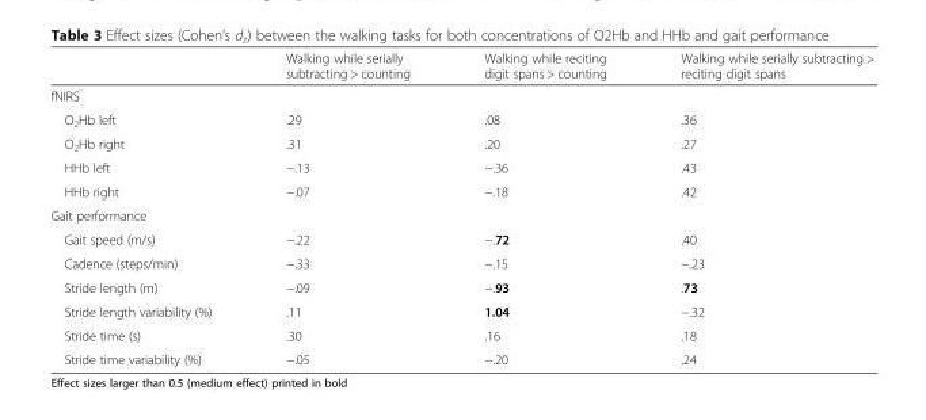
<table><thead><tr><td></td><td>Walking while serially subtracting &gt; counting</td><td>Walking while reciting digit spans &gt; counting</td><td>Walking while serially subtracting &gt; reciting digit spans</td></tr></thead><tbody><tr><td colspan="4">fNIRS</td></tr><tr><td>O<sub>2</sub>Hb left</td><td>.29</td><td>.08</td><td>.36</td></tr><tr><td>O<sub>2</sub>Hb right</td><td>.31</td><td>.20</td><td>.27</td></tr><tr><td>HHb left</td><td>−.13</td><td>−.36</td><td>.43</td></tr><tr><td>HHb right</td><td>−.07</td><td>−.18</td><td>.42</td></tr><tr><td colspan="4">Gait performance</td></tr><tr><td>Gait speed (m/s)</td><td>−.22</td><td>−.72</td><td>.40</td></tr><tr><td>Cadence (steps/min)</td><td>−.33</td><td>−.15</td><td>−.23</td></tr><tr><td>Stride length (m)</td><td>−.09</td><td>−.93</td><td>.73</td></tr><tr><td>Stride length variability (%)</td><td>.11</td><td>1.04</td><td>−.32</td></tr><tr><td>Stride time (s)</td><td>.30</td><td>.16</td><td>.18</td></tr><tr><td>Stride time variability (%)</td><td>−.05</td><td>−.20</td><td>.24</td></tr></tbody></table>